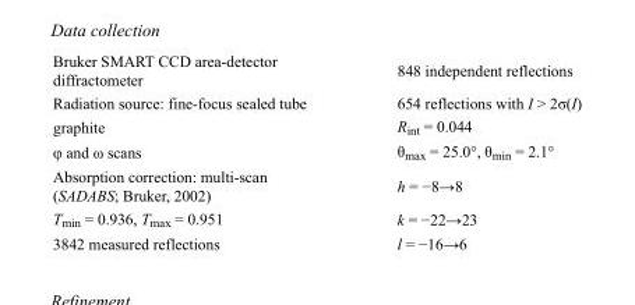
<table><tbody><tr><td>Bruker SMART CCD area-detector diffractometer</td><td>848 independent reflections</td></tr><tr><td>Radiation source: fine-focus sealed tube</td><td>654 reflections with I &gt; 2σ(I)</td></tr><tr><td>graphite</td><td>Rint = 0.044</td></tr><tr><td>φ and ω scans</td><td>θmax = 25.0°, θmin = 2.1°</td></tr><tr><td>Absorption correction: multi-scan (SADABS; Bruker, 2002)</td><td>h = −8→8</td></tr><tr><td>Tmin = 0.936, Tmax = 0.951</td><td>k = −22→23</td></tr><tr><td>3842 measured reflections</td><td>l = −16→6</td></tr></tbody></table>